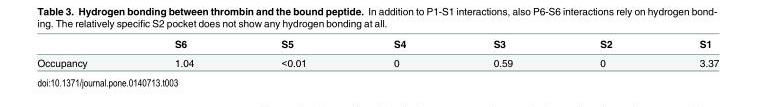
<table><thead><tr><td></td><td>S6</td><td>S5</td><td>S4</td><td>S3</td><td>S2</td><td>S1</td></tr></thead><tbody><tr><td>Occupancy</td><td>1.04</td><td>&lt;0.01</td><td>0</td><td>0.59</td><td>0</td><td>3.37</td></tr></tbody></table>